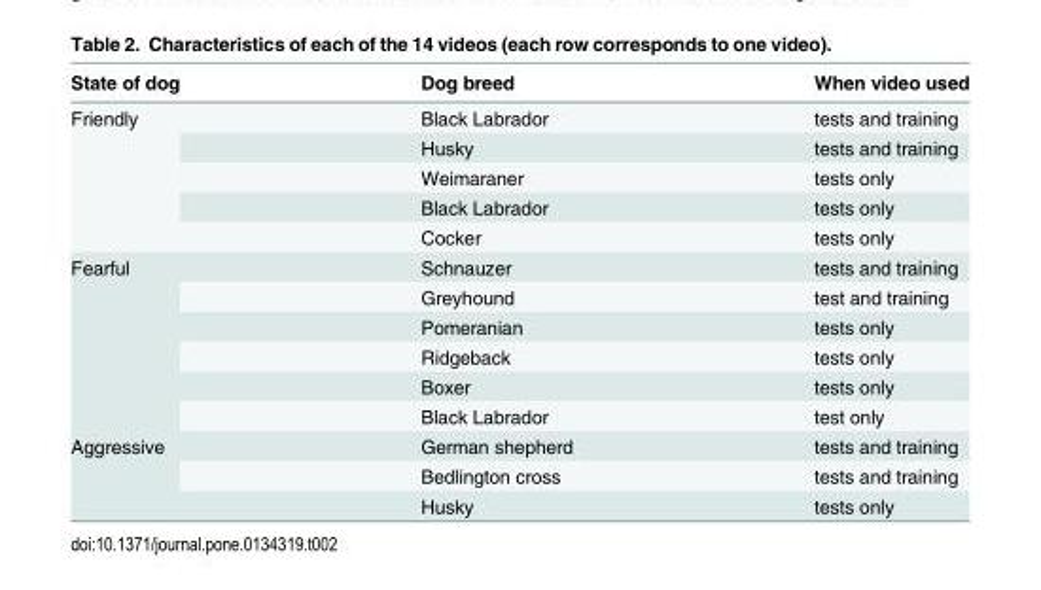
<table><thead><tr><td>State of dog</td><td>Dog breed</td><td>When video used</td></tr></thead><tbody><tr><td rowspan="5">Friendly</td><td>Black Labrador</td><td>tests and training</td></tr><tr><td>Husky</td><td>tests and training</td></tr><tr><td>Weimaraner</td><td>tests only</td></tr><tr><td>Black Labrador</td><td>tests only</td></tr><tr><td>Cocker</td><td>tests only</td></tr><tr><td rowspan="6">Fearful</td><td>Schnauzer</td><td>tests and training</td></tr><tr><td>Greyhound</td><td>test and training</td></tr><tr><td>Pomeranian</td><td>tests only</td></tr><tr><td>Ridgeback</td><td>tests only</td></tr><tr><td>Boxer</td><td>tests only</td></tr><tr><td>Black Labrador</td><td>test only</td></tr><tr><td rowspan="3">Aggressive</td><td>German shepherd</td><td>tests and training</td></tr><tr><td>Bedlington cross</td><td>tests and training</td></tr><tr><td>Husky</td><td>tests only</td></tr></tbody></table>